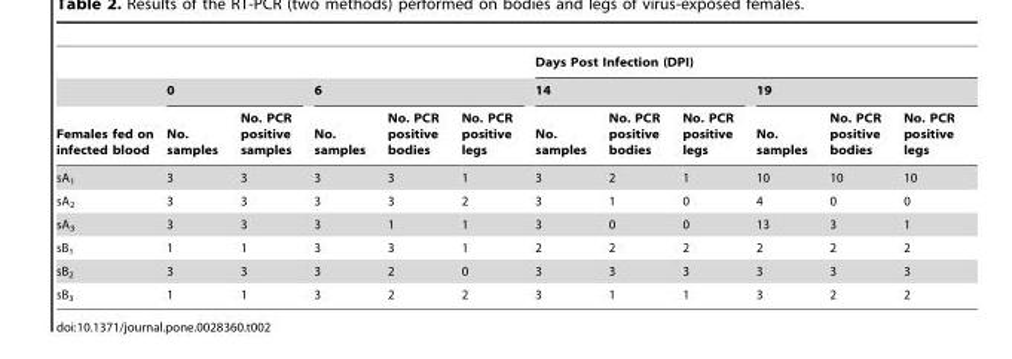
<table><thead><tr><td rowspan="3">Females fed on infected blood</td><td></td><td></td><td></td><td></td><td></td><td colspan="6">Days Post Infection (DPI)</td></tr><tr><td colspan="2">0</td><td colspan="3">6</td><td colspan="3">14</td><td colspan="3">19</td></tr><tr><td>No. samples</td><td>No. PCR positive samples</td><td>No. samples</td><td>No. PCR positive bodies</td><td>No. PCR positive legs</td><td>No. samples</td><td>No. PCR positive bodies</td><td>No. PCR positive legs</td><td>No. samples</td><td>No. PCR positive bodies</td><td>No. PCR positive legs</td></tr></thead><tbody><tr><td>sA<sub>1</sub></td><td>3</td><td>3</td><td>3</td><td>3</td><td>1</td><td>3</td><td>2</td><td>1</td><td>10</td><td>10</td><td>10</td></tr><tr><td>sA<sub>2</sub></td><td>3</td><td>3</td><td>3</td><td>3</td><td>2</td><td>3</td><td>1</td><td>0</td><td>4</td><td>0</td><td>0</td></tr><tr><td>sA<sub>3</sub></td><td>3</td><td>3</td><td>3</td><td>1</td><td>1</td><td>3</td><td>0</td><td>0</td><td>13</td><td>3</td><td>1</td></tr><tr><td>sB<sub>1</sub></td><td>1</td><td>1</td><td>3</td><td>3</td><td>1</td><td>2</td><td>2</td><td>2</td><td>2</td><td>2</td><td>2</td></tr><tr><td>sB<sub>2</sub></td><td>3</td><td>3</td><td>3</td><td>2</td><td>0</td><td>3</td><td>3</td><td>3</td><td>3</td><td>3</td><td>3</td></tr><tr><td>sB<sub>3</sub></td><td>1</td><td>1</td><td>3</td><td>2</td><td>2</td><td>3</td><td>1</td><td>1</td><td>3</td><td>2</td><td>2</td></tr></tbody></table>